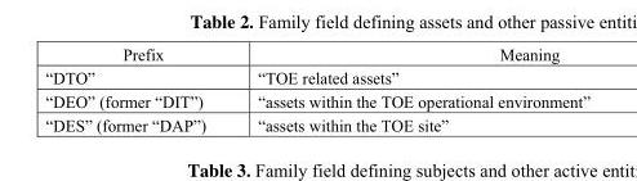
<table><thead><tr><td>Prefix</td><td>Meaning</td></tr></thead><tbody><tr><td>“DTO”</td><td>“TOE related assets”</td></tr><tr><td>“DEO” (former “DIT”)</td><td>“assets within the TOE operational environment”</td></tr><tr><td>“DES” (former “DAP”)</td><td>“assets within the TOE site”</td></tr></tbody></table>